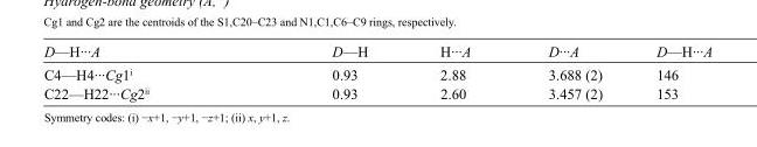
<table><tbody><tr><td>D—H···A</td><td>D—H</td><td>H···A</td><td>D···A</td><td>D—H···A</td></tr><tr><td>C4—H4···Cg1<sup>i</sup></td><td>0.93</td><td>2.88</td><td>3.688 (2)</td><td>146</td></tr><tr><td>C22—H22···Cg2<sup>ii</sup></td><td>0.93</td><td>2.60</td><td>3.457 (2)</td><td>153</td></tr></tbody></table>